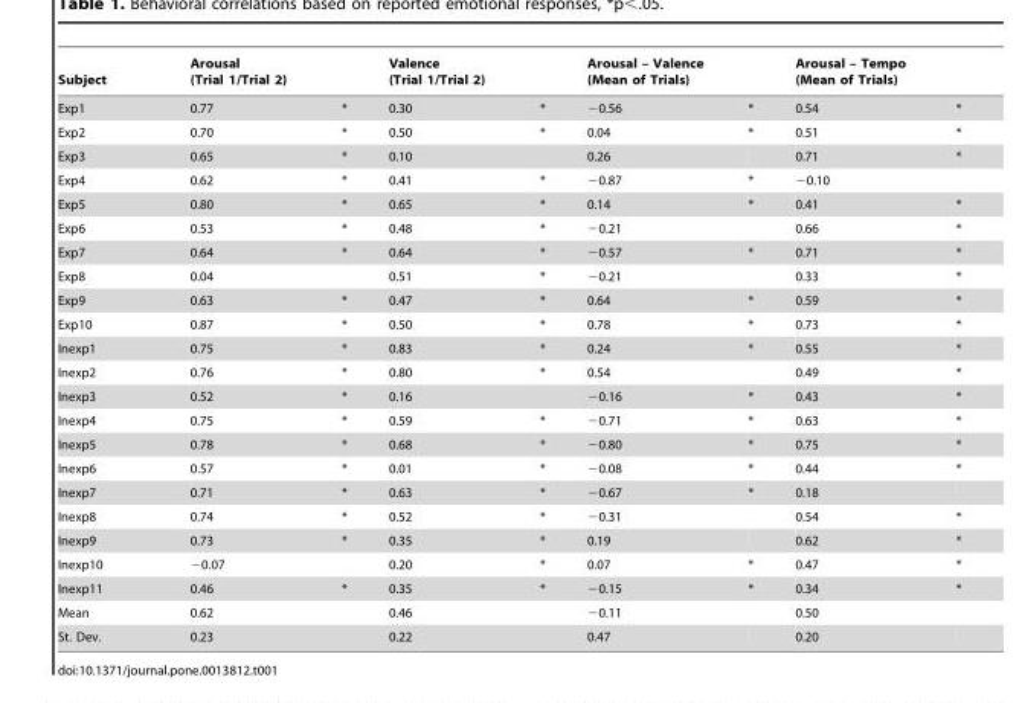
<table><thead><tr><td rowspan="2">Subject Exp1</td><td colspan="2">Arousal (Trial 1/Trial 2)</td><td colspan="2">Valence (Trial 1/Trial 2)</td><td colspan="2">Arousal – Valence (Mean of Trials)</td><td colspan="2">Arousal – Tempo (Mean of Trials)</td></tr><tr><td>0.77</td><td>*</td><td>0.30</td><td>*</td><td>−0.56</td><td>*</td><td>0.54</td><td>*</td></tr></thead><tbody><tr><td>Exp2</td><td>0.70</td><td>*</td><td>0.50</td><td>*</td><td>0.04</td><td>*</td><td>0.51</td><td>*</td></tr><tr><td>Exp3</td><td>0.65</td><td>*</td><td>0.10</td><td></td><td>0.26</td><td></td><td>0.71</td><td>*</td></tr><tr><td>Exp4</td><td>0.62</td><td>*</td><td>0.41</td><td>*</td><td>−0.87</td><td>*</td><td>−0.10</td><td></td></tr><tr><td>Exp5</td><td>0.80</td><td>*</td><td>0.65</td><td>*</td><td>0.14</td><td>*</td><td>0.41</td><td>*</td></tr><tr><td>Exp6</td><td>0.53</td><td>*</td><td>0.48</td><td>*</td><td>−0.21</td><td></td><td>0.66</td><td>*</td></tr><tr><td>Exp7</td><td>0.64</td><td>*</td><td>0.64</td><td>*</td><td>−0.57</td><td>*</td><td>0.71</td><td>*</td></tr><tr><td>Exp8</td><td>0.04</td><td></td><td>0.51</td><td>*</td><td>−0.21</td><td></td><td>0.33</td><td>*</td></tr><tr><td>Exp9</td><td>0.63</td><td>*</td><td>0.47</td><td>*</td><td>0.64</td><td>*</td><td>0.59</td><td>*</td></tr><tr><td>Exp10</td><td>0.87</td><td>*</td><td>0.50</td><td>*</td><td>0.78</td><td>*</td><td>0.73</td><td>*</td></tr><tr><td>Inexp1</td><td>0.75</td><td>*</td><td>0.83</td><td>*</td><td>0.24</td><td>*</td><td>0.55</td><td>*</td></tr><tr><td>Inexp2</td><td>0.76</td><td>*</td><td>0.80</td><td>*</td><td>0.54</td><td></td><td>0.49</td><td>*</td></tr><tr><td>Inexp3</td><td>0.52</td><td>*</td><td>0.16</td><td></td><td>−0.16</td><td>*</td><td>0.43</td><td>*</td></tr><tr><td>Inexp4</td><td>0.75</td><td>*</td><td>0.59</td><td>*</td><td>−0.71</td><td>*</td><td>0.63</td><td>*</td></tr><tr><td>Inexp5</td><td>0.78</td><td>*</td><td>0.68</td><td>*</td><td>−0.80</td><td>*</td><td>0.75</td><td>*</td></tr><tr><td>Inexp6</td><td>0.57</td><td>*</td><td>0.01</td><td>*</td><td>−0.08</td><td>*</td><td>0.44</td><td>*</td></tr><tr><td>Inexp7</td><td>0.71</td><td>*</td><td>0.63</td><td>*</td><td>−0.67</td><td>*</td><td>0.18</td><td></td></tr><tr><td>Inexp8</td><td>0.74</td><td>*</td><td>0.52</td><td>*</td><td>−0.31</td><td></td><td>0.54</td><td>*</td></tr><tr><td>Inexp9</td><td>0.73</td><td>*</td><td>0.35</td><td>*</td><td>0.19</td><td></td><td>0.62</td><td>*</td></tr><tr><td>Inexp10</td><td>−0.07</td><td></td><td>0.20</td><td>*</td><td>0.07</td><td>*</td><td>0.47</td><td>*</td></tr><tr><td>Inexp11</td><td>0.46</td><td>*</td><td>0.35</td><td>*</td><td>−0.15</td><td>*</td><td>0.34</td><td>*</td></tr><tr><td>Mean</td><td>0.62</td><td></td><td>0.46</td><td></td><td>−0.11</td><td></td><td>0.50</td><td></td></tr><tr><td>St. Dev.</td><td>0.23</td><td></td><td>0.22</td><td></td><td>0.47</td><td></td><td>0.20</td><td></td></tr></tbody></table>